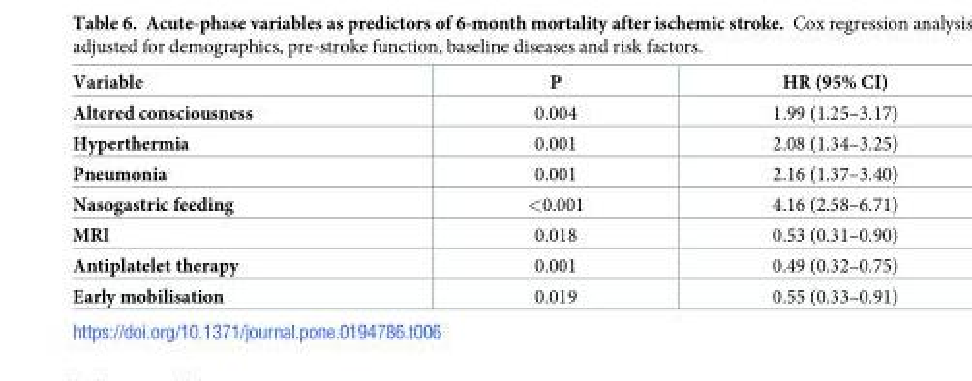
<table><thead><tr><td>Variable</td><td>P</td><td>HR (95% CI)</td></tr></thead><tbody><tr><td>Altered consciousness</td><td>0.004</td><td>1.99 (1.25–3.17)</td></tr><tr><td>Hyperthermia</td><td>0.001</td><td>2.08 (1.34–3.25)</td></tr><tr><td>Pneumonia</td><td>0.001</td><td>2.16 (1.37–3.40)</td></tr><tr><td>Nasogastric feeding</td><td>&lt;0.001</td><td>4.16 (2.58–6.71)</td></tr><tr><td>MRI</td><td>0.018</td><td>0.53 (0.31–0.90)</td></tr><tr><td>Antiplatelet therapy</td><td>0.001</td><td>0.49 (0.32–0.75)</td></tr><tr><td>Early mobilisation</td><td>0.019</td><td>0.55 (0.33–0.91)</td></tr></tbody></table>